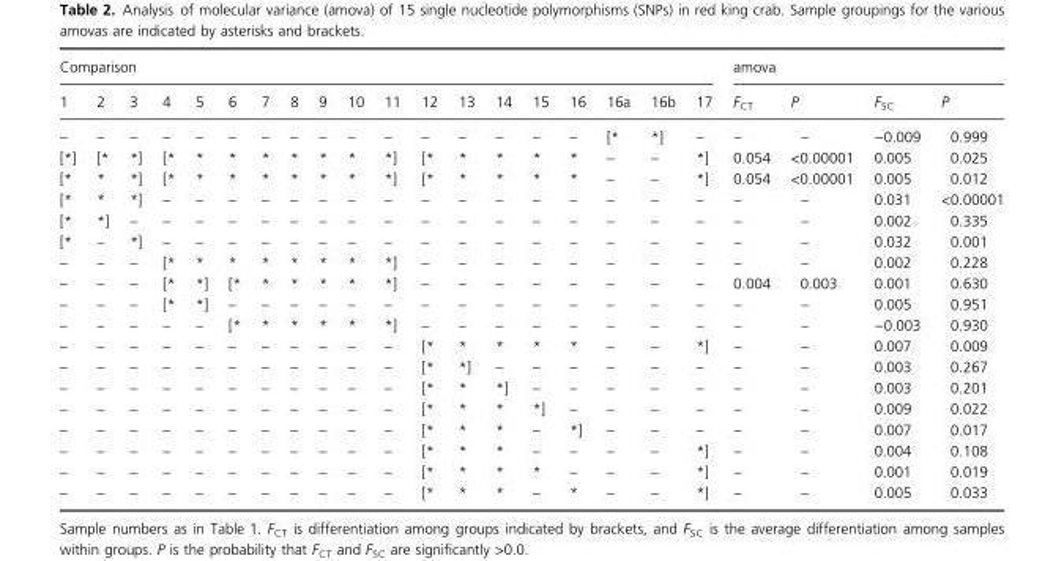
<table><thead><tr><td colspan="19">Comparison</td><td colspan="4">amova</td></tr><tr><td>1</td><td>2</td><td>3</td><td>4</td><td>5</td><td>6</td><td>7</td><td>8</td><td>9</td><td>10</td><td>11</td><td>12</td><td>13</td><td>14</td><td>15</td><td>16</td><td>16a</td><td>16b</td><td>17</td><td>F<sub>CT</sub></td><td>P</td><td>F<sub>SC</sub></td><td>P</td></tr></thead><tbody><tr><td>–</td><td>–</td><td>–</td><td>–</td><td>–</td><td>–</td><td>–</td><td>–</td><td>–</td><td>–</td><td>–</td><td>–</td><td>–</td><td>–</td><td>–</td><td>–</td><td>[*</td><td>*]</td><td>–</td><td>–</td><td>–</td><td>−0.009</td><td>0.999</td></tr><tr><td>[*]</td><td>[*</td><td>*]</td><td>[*</td><td>*</td><td>*</td><td>*</td><td>*</td><td>*</td><td>*</td><td>*]</td><td>[*</td><td>*</td><td>*</td><td>*</td><td>*</td><td>–</td><td>–</td><td>*]</td><td>0.054</td><td>&lt;0.00001</td><td>0.005</td><td>0.025</td></tr><tr><td>[*</td><td>*</td><td>*]</td><td>[*</td><td>*</td><td>*</td><td>*</td><td>*</td><td>*</td><td>*</td><td>*]</td><td>[*</td><td>*</td><td>*</td><td>*</td><td>*</td><td>–</td><td>–</td><td>*]</td><td>0.054</td><td>&lt;0.00001</td><td>0.005</td><td>0.012</td></tr><tr><td>[*</td><td>*</td><td>*]</td><td>–</td><td>–</td><td>–</td><td>–</td><td>–</td><td>–</td><td>–</td><td>–</td><td>–</td><td>–</td><td>–</td><td>–</td><td>–</td><td>–</td><td>–</td><td>–</td><td>–</td><td>–</td><td>0.031</td><td>&lt;0.00001</td></tr><tr><td>[*</td><td>*]</td><td>–</td><td>–</td><td>–</td><td>–</td><td>–</td><td>–</td><td>–</td><td>–</td><td>–</td><td>–</td><td>–</td><td>–</td><td>–</td><td>–</td><td>–</td><td>–</td><td>–</td><td>–</td><td>–</td><td>0.002</td><td>0.335</td></tr><tr><td>[*</td><td>–</td><td>*]</td><td>–</td><td>–</td><td>–</td><td>–</td><td>–</td><td>–</td><td>–</td><td>–</td><td>–</td><td>–</td><td>–</td><td>–</td><td>–</td><td>–</td><td>–</td><td>–</td><td>–</td><td>–</td><td>0.032</td><td>0.001</td></tr><tr><td>–</td><td>–</td><td>–</td><td>[*</td><td>*</td><td>*</td><td>*</td><td>*</td><td>*</td><td>*</td><td>*]</td><td>–</td><td>–</td><td>–</td><td>–</td><td>–</td><td>–</td><td>–</td><td>–</td><td>–</td><td>–</td><td>0.002</td><td>0.228</td></tr><tr><td>–</td><td>–</td><td>–</td><td>[*</td><td>*]</td><td>[*</td><td>*</td><td>*</td><td>*</td><td>*</td><td>*]</td><td>–</td><td>–</td><td>–</td><td>–</td><td>–</td><td>–</td><td>–</td><td>–</td><td>0.004</td><td>0.003</td><td>0.001</td><td>0.630</td></tr><tr><td>–</td><td>–</td><td>–</td><td>[*</td><td>*]</td><td>–</td><td>–</td><td>–</td><td>–</td><td>–</td><td>–</td><td>–</td><td>–</td><td>–</td><td>–</td><td>–</td><td>–</td><td>–</td><td>–</td><td>–</td><td>–</td><td>0.005</td><td>0.951</td></tr><tr><td>–</td><td>–</td><td>–</td><td>–</td><td>–</td><td>[*</td><td>*</td><td>*</td><td>*</td><td>*</td><td>*]</td><td>–</td><td>–</td><td>–</td><td>–</td><td>–</td><td>–</td><td>–</td><td>–</td><td>–</td><td>–</td><td>−0.003</td><td>0.930</td></tr><tr><td>–</td><td>–</td><td>–</td><td>–</td><td>–</td><td>–</td><td>–</td><td>–</td><td>–</td><td>–</td><td>–</td><td>[*</td><td>*</td><td>*</td><td>*</td><td>*</td><td>–</td><td>–</td><td>*]</td><td>–</td><td>–</td><td>0.007</td><td>0.009</td></tr><tr><td>–</td><td>–</td><td>–</td><td>–</td><td>–</td><td>–</td><td>–</td><td>–</td><td>–</td><td>–</td><td>–</td><td>[*</td><td>*]</td><td>–</td><td>–</td><td>–</td><td>–</td><td>–</td><td>–</td><td>–</td><td>–</td><td>0.003</td><td>0.267</td></tr><tr><td>–</td><td>–</td><td>–</td><td>–</td><td>–</td><td>–</td><td>–</td><td>–</td><td>–</td><td>–</td><td>–</td><td>[*</td><td>*</td><td>*]</td><td>–</td><td>–</td><td>–</td><td>–</td><td>–</td><td>–</td><td>–</td><td>0.003</td><td>0.201</td></tr><tr><td>–</td><td>–</td><td>–</td><td>–</td><td>–</td><td>–</td><td>–</td><td>–</td><td>–</td><td>–</td><td>–</td><td>[*</td><td>*</td><td>*</td><td>*]</td><td>–</td><td>–</td><td>–</td><td>–</td><td>–</td><td>–</td><td>0.009</td><td>0.022</td></tr><tr><td>–</td><td>–</td><td>–</td><td>–</td><td>–</td><td>–</td><td>–</td><td>–</td><td>–</td><td>–</td><td>–</td><td>[*</td><td>*</td><td>*</td><td>–</td><td>*]</td><td>–</td><td>–</td><td>–</td><td>–</td><td>–</td><td>0.007</td><td>0.017</td></tr><tr><td>–</td><td>–</td><td>–</td><td>–</td><td>–</td><td>–</td><td>–</td><td>–</td><td>–</td><td>–</td><td>–</td><td>[*</td><td>*</td><td>*</td><td>–</td><td>–</td><td>–</td><td>–</td><td>*]</td><td>–</td><td>–</td><td>0.004</td><td>0.108</td></tr><tr><td>–</td><td>–</td><td>–</td><td>–</td><td>–</td><td>–</td><td>–</td><td>–</td><td>–</td><td>–</td><td>–</td><td>[*</td><td>*</td><td>*</td><td>*</td><td>–</td><td>–</td><td>–</td><td>*]</td><td>–</td><td>–</td><td>0.001</td><td>0.019</td></tr><tr><td>–</td><td>–</td><td>–</td><td>–</td><td>–</td><td>–</td><td>–</td><td>–</td><td>–</td><td>–</td><td>–</td><td>[*</td><td>*</td><td>*</td><td>–</td><td>*</td><td>–</td><td>–</td><td>*]</td><td>–</td><td>–</td><td>0.005</td><td>0.033</td></tr></tbody></table>